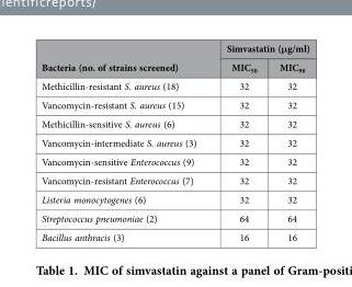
<table><thead><tr><td rowspan="2">Bacteria (no. of strains screened)</td><td colspan="2">Simvastatin (μg/ml)</td></tr><tr><td>MIC<sub>50</sub></td><td>MIC<sub>90</sub></td></tr></thead><tbody><tr><td>Methicillin-resistant S. aureus (18)</td><td>32</td><td>32</td></tr><tr><td>Vancomycin-resistant S. aureus (15)</td><td>32</td><td>32</td></tr><tr><td>Methicillin-sensitive S. aureus (6)</td><td>32</td><td>32</td></tr><tr><td>Vancomycin-intermediate S. aureus (3)</td><td>32</td><td>32</td></tr><tr><td>Vancomycin-sensitive Enterococcus (9)</td><td>32</td><td>32</td></tr><tr><td>Vancomycin-resistant Enterococcus (7)</td><td>32</td><td>32</td></tr><tr><td>Listeria monocytogenes (6)</td><td>32</td><td>32</td></tr><tr><td>Streptococcus pneumoniae (2)</td><td>64</td><td>64</td></tr><tr><td>Bacillus anthracis (3)</td><td>16</td><td>16</td></tr></tbody></table>